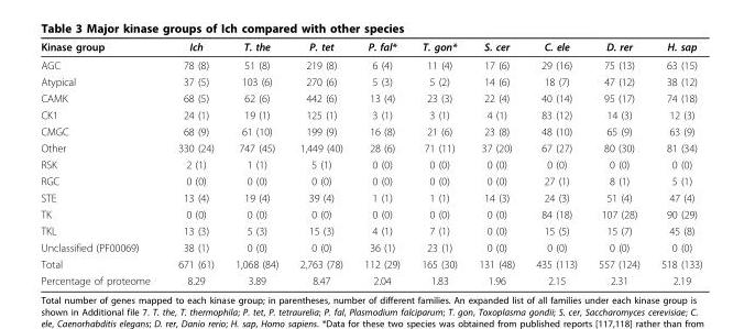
<table><thead><tr><td>Kinase group</td><td>Ich</td><td>T. the</td><td>P. tet</td><td>P. fal*</td><td>T. gon*</td><td>S. cer</td><td>C. ele</td><td>D. rer</td><td>H. sap</td></tr></thead><tbody><tr><td>AGC</td><td>78 (8)</td><td>51 (8)</td><td>219 (8)</td><td>6 (4)</td><td>11 (4)</td><td>17 (6)</td><td>29 (16)</td><td>75 (13)</td><td>63 (15)</td></tr><tr><td>Atypical</td><td>37 (5)</td><td>103 (6)</td><td>270 (6)</td><td>5 (3)</td><td>5 (2)</td><td>14 (6)</td><td>18 (7)</td><td>47 (12)</td><td>38 (12)</td></tr><tr><td>CAMK</td><td>68 (5)</td><td>62 (6)</td><td>442 (6)</td><td>13 (4)</td><td>23 (3)</td><td>22 (4)</td><td>40 (14)</td><td>95 (17)</td><td>74 (18)</td></tr><tr><td>CK1</td><td>24 (1)</td><td>19 (1)</td><td>125 (1)</td><td>3 (1)</td><td>3 (1)</td><td>4 (1)</td><td>83 (12)</td><td>14 (3)</td><td>12 (3)</td></tr><tr><td>CMGC</td><td>68 (9)</td><td>61 (10)</td><td>199 (9)</td><td>16 (8)</td><td>21 (6)</td><td>23 (8)</td><td>48 (10)</td><td>65 (9)</td><td>63 (9)</td></tr><tr><td>Other</td><td>330 (24)</td><td>747 (45)</td><td>1,449 (40)</td><td>28 (6)</td><td>71 (11)</td><td>37 (20)</td><td>67 (27)</td><td>80 (30)</td><td>81 (34)</td></tr><tr><td>RSK</td><td>2 (1)</td><td>1 (1)</td><td>5 (1)</td><td>0 (0)</td><td>0 (0)</td><td>0 (0)</td><td>0 (0)</td><td>0 (0)</td><td>0 (0)</td></tr><tr><td>RGC</td><td>0 (0)</td><td>0 (0)</td><td>0 (0)</td><td>0 (0)</td><td>0 (0)</td><td>0 (0)</td><td>27 (1)</td><td>8 (1)</td><td>5 (1)</td></tr><tr><td>STE</td><td>13 (4)</td><td>19 (4)</td><td>39 (4)</td><td>1 (1)</td><td>1 (1)</td><td>14 (3)</td><td>24 (3)</td><td>51 (4)</td><td>47 (4)</td></tr><tr><td>TK</td><td>0 (0)</td><td>0 (0)</td><td>0 (0)</td><td>0 (0)</td><td>0 (0)</td><td>0 (0)</td><td>84 (18)</td><td>107 (28)</td><td>90 (29)</td></tr><tr><td>TKL</td><td>13 (3)</td><td>5 (3)</td><td>15 (3)</td><td>4 (1)</td><td>7 (1)</td><td>0 (0)</td><td>15 (5)</td><td>15 (7)</td><td>45 (8)</td></tr><tr><td>Unclassified (PF00069)</td><td>38 (1)</td><td>0 (0)</td><td>0 (0)</td><td>36 (1)</td><td>23 (1)</td><td>0 (0)</td><td>0 (0)</td><td>0 (0)</td><td>0 (0)</td></tr><tr><td>Total</td><td>671 (61)</td><td>1,068 (84)</td><td>2,763 (78)</td><td>112 (29)</td><td>165 (30)</td><td>131 (48)</td><td>435 (113)</td><td>557 (124)</td><td>518 (133)</td></tr><tr><td>Percentage of proteome</td><td>8.29</td><td>3.89</td><td>8.47</td><td>2.04</td><td>1.83</td><td>1.96</td><td>2.15</td><td>2.31</td><td>2.19</td></tr></tbody></table>